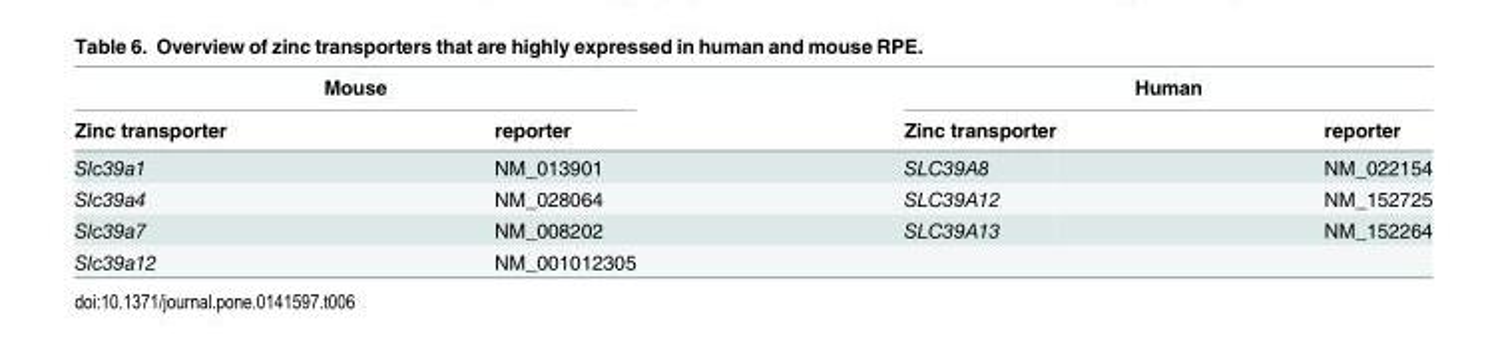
<table><thead><tr><td colspan="2">Mouse</td><td colspan="2">Human</td></tr><tr><td>Zinc transporter</td><td>reporter</td><td>Zinc transporter</td><td>reporter</td></tr></thead><tbody><tr><td>Slc39a1</td><td>NM_013901</td><td>SLC39A8</td><td>NM_022154</td></tr><tr><td>Slc39a4</td><td>NM_028064</td><td>SLC39A12</td><td>NM_152725</td></tr><tr><td>Slc39a7</td><td>NM_008202</td><td>SLC39A13</td><td>NM_152264</td></tr><tr><td>Slc39a12</td><td>NM_001012305</td><td></td><td></td></tr></tbody></table>